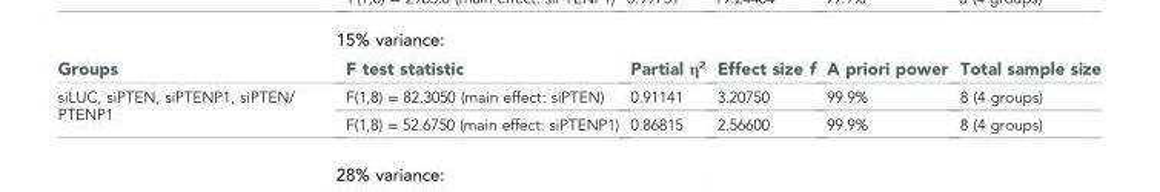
<table><thead><tr><td>Groups</td><td>F test statistic</td><td>Partial η<sup>2</sup></td><td>Effect size f</td><td>A priori power</td><td>Total sample size</td></tr></thead><tbody><tr><td rowspan="2">siLUC, siPTEN, siPTENP1, siPTEN/ PTENP1</td><td>F(1,8) = 82.3050 (main effect: siPTEN)</td><td>0.91141</td><td>3.20750</td><td>99.9%</td><td>8 (4 groups)</td></tr><tr><td>F(1,8) = 52.6750 (main effect: siPTENP1)</td><td>0.86815</td><td>2.56600</td><td>99.9%</td><td>8 (4 groups)</td></tr></tbody></table>